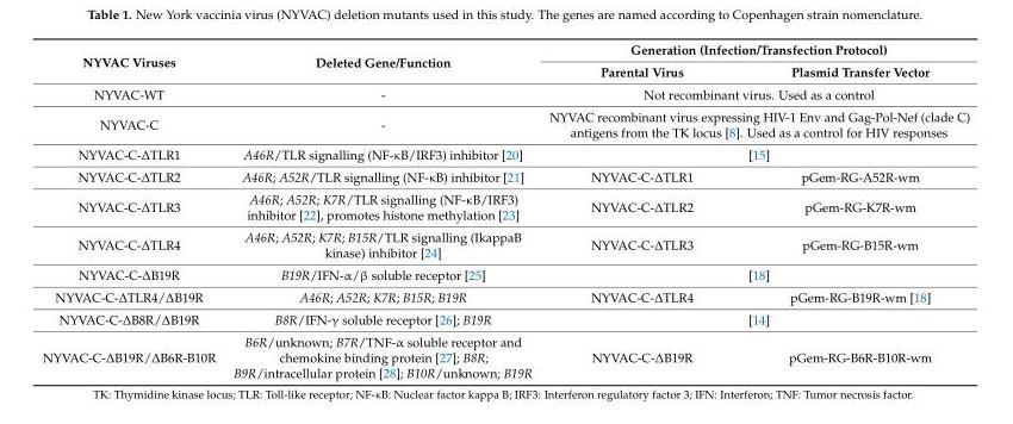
<table><thead><tr><td rowspan="2">NYVAC Viruses</td><td rowspan="2">Deleted Gene/Function</td><td colspan="2">Generation (Infection/Transfection Protocol)</td></tr><tr><td>Parental Virus</td><td>Plasmid Transfer Vector</td></tr></thead><tbody><tr><td>NYVAC-WT</td><td>-</td><td colspan="2">Not recombinant virus. Used as a control</td></tr><tr><td>NYVAC-C</td><td>-</td><td colspan="2">NYVAC recombinant virus expressing HIV-1 Env and Gag-Pol-Nef (clade C) antigens from the TK locus [8]. Used as a control for HIV responses</td></tr><tr><td>NYVAC-C-∆TLR1</td><td>A46R/TLR signalling (NF-κB/IRF3) inhibitor [20]</td><td colspan="2">[15]</td></tr><tr><td>NYVAC-C-∆TLR2</td><td>A46R; A52R/TLR signalling (NF-κB) inhibitor [21]</td><td>NYVAC-C-∆TLR1</td><td>pGem-RG-A52R-wm</td></tr><tr><td>NYVAC-C-∆TLR3</td><td>A46R; A52R; K7R/TLR signalling (NF-κB/IRF3) inhibitor [22], promotes histone methylation [23]</td><td>NYVAC-C-∆TLR2</td><td>pGem-RG-K7R-wm</td></tr><tr><td>NYVAC-C-∆TLR4</td><td>A46R; A52R; K7R; B15R/TLR signalling (IkappaB kinase) inhibitor [24]</td><td>NYVAC-C-∆TLR3</td><td>pGem-RG-B15R-wm</td></tr><tr><td>NYVAC-C-∆B19R</td><td>B19R/IFN-α/β soluble receptor [25]</td><td colspan="2">[18]</td></tr><tr><td>NYVAC-C-∆TLR4/∆B19R</td><td>A46R; A52R; K7R; B15R; B19R</td><td>NYVAC-C-∆TLR4</td><td>pGem-RG-B19R-wm [18]</td></tr><tr><td>NYVAC-C-∆B8R/∆B19R</td><td>B8R/IFN-γ soluble receptor [26]; B19R</td><td colspan="2">[14]</td></tr><tr><td>NYVAC-C-∆B19R/∆B6R-B10R</td><td>B6R/unknown; B7R/TNF-α soluble receptor and chemokine binding protein [27]; B8R; B9R/intracellular protein [28]; B10R/unknown; B19R</td><td>NYVAC-C-∆B19R</td><td>pGem-RG-B6R-B10R-wm</td></tr></tbody></table>